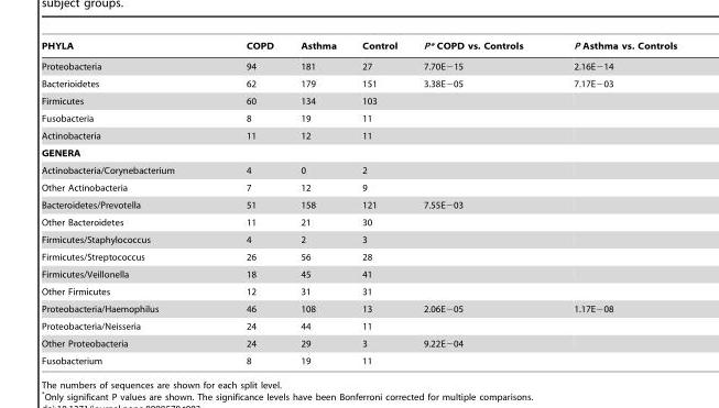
<table><thead><tr><td>PHYLA</td><td>COPD</td><td>Asthma</td><td>Control</td><td>P* COPD vs. Controls</td><td>P Asthma vs. Controls</td></tr></thead><tbody><tr><td>Proteobacteria</td><td>94</td><td>181</td><td>27</td><td>7.70E−15</td><td>2.16E−14</td></tr><tr><td>Bacterioidetes</td><td>62</td><td>179</td><td>151</td><td>3.38E−05</td><td>7.17E−03</td></tr><tr><td>Firmicutes</td><td>60</td><td>134</td><td>103</td><td></td><td></td></tr><tr><td>Fusobacteria</td><td>8</td><td>19</td><td>11</td><td></td><td></td></tr><tr><td>Actinobacteria</td><td>11</td><td>12</td><td>11</td><td></td><td></td></tr><tr><td colspan="6">GENERA</td></tr><tr><td>Actinobacteria/Corynebacterium</td><td>4</td><td>0</td><td>2</td><td></td><td></td></tr><tr><td>Other Actinobacteria</td><td>7</td><td>12</td><td>9</td><td></td><td></td></tr><tr><td>Bacteroidetes/Prevotella</td><td>51</td><td>158</td><td>121</td><td>7.55E−03</td><td></td></tr><tr><td>Other Bacteroidetes</td><td>11</td><td>21</td><td>30</td><td></td><td></td></tr><tr><td>Firmicutes/Staphylococcus</td><td>4</td><td>2</td><td>3</td><td></td><td></td></tr><tr><td>Firmicutes/Streptococcus</td><td>26</td><td>56</td><td>28</td><td></td><td></td></tr><tr><td>Firmicutes/Veillonella</td><td>18</td><td>45</td><td>41</td><td></td><td></td></tr><tr><td>Other Firmicutes</td><td>12</td><td>31</td><td>31</td><td></td><td></td></tr><tr><td>Proteobacteria/Haemophilus</td><td>46</td><td>108</td><td>13</td><td>2.06E−05</td><td>1.17E−08</td></tr><tr><td>Proteobacteria/Neisseria</td><td>24</td><td>44</td><td>11</td><td></td><td></td></tr><tr><td>Other Proteobacteria</td><td>24</td><td>29</td><td>3</td><td>9.22E−04</td><td></td></tr><tr><td>Fusobacterium</td><td>8</td><td>19</td><td>11</td><td></td><td></td></tr></tbody></table>